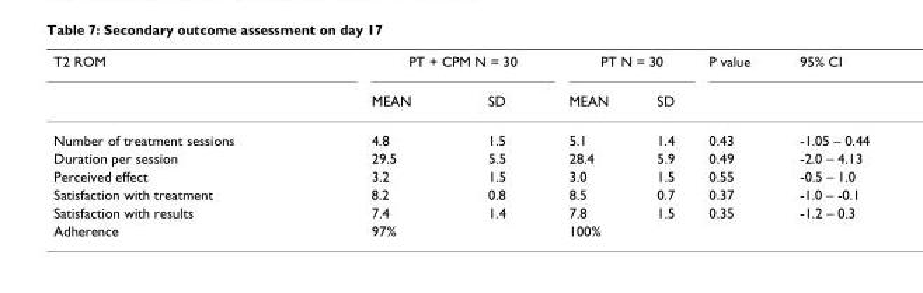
<table><thead><tr><td rowspan="2">T2 ROM</td><td colspan="2">PT + CPM N = 30</td><td colspan="2">PT N = 30</td><td rowspan="2">P value</td><td rowspan="2">95% CI</td></tr><tr><td>MEAN</td><td>SD</td><td>MEAN</td><td>SD</td></tr></thead><tbody><tr><td>Number of treatment sessions</td><td>4.8</td><td>1.5</td><td>5.1</td><td>1.4</td><td>0.43</td><td>-1.05 – 0.44</td></tr><tr><td>Duration per session</td><td>29.5</td><td>5.5</td><td>28.4</td><td>5.9</td><td>0.49</td><td>-2.0 – 4.13</td></tr><tr><td>Perceived effect</td><td>3.2</td><td>1.5</td><td>3.0</td><td>1.5</td><td>0.55</td><td>-0.5 – 1.0</td></tr><tr><td>Satisfaction with treatment</td><td>8.2</td><td>0.8</td><td>8.5</td><td>0.7</td><td>0.37</td><td>-1.0 – -0.1</td></tr><tr><td>Satisfaction with results</td><td>7.4</td><td>1.4</td><td>7.8</td><td>1.5</td><td>0.35</td><td>-1.2 – 0.3</td></tr><tr><td>Adherence</td><td colspan="2">97%</td><td colspan="2">100%</td><td></td><td></td></tr></tbody></table>